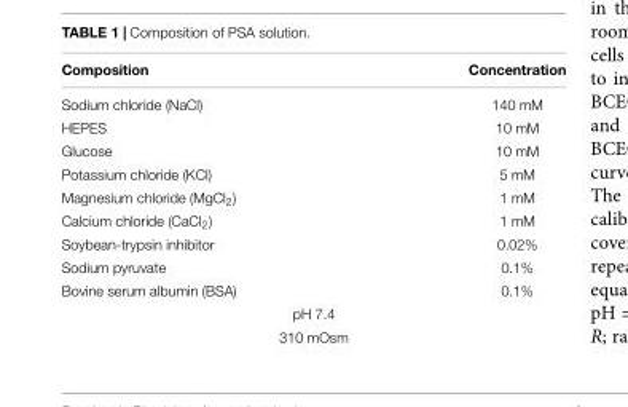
<table><thead><tr><td>Composition</td><td>Concentration</td></tr></thead><tbody><tr><td>Sodium chloride (NaCl)</td><td>140 mM</td></tr><tr><td>HEPES</td><td>10 mM</td></tr><tr><td>Glucose</td><td>10 mM</td></tr><tr><td>Potassium chloride (KCl)</td><td>5 mM</td></tr><tr><td>Magnesium chloride (MgCl<sub>2</sub>)</td><td>1 mM</td></tr><tr><td>Calcium chloride (CaCl<sub>2</sub>)</td><td>1 mM</td></tr><tr><td>Soybean-trypsin inhibitor</td><td>0.02%</td></tr><tr><td>Sodium pyruvate</td><td>0.1%</td></tr><tr><td>Bovine serum albumin (BSA)</td><td>0.1%</td></tr><tr><td colspan="2">pH 7.4</td></tr><tr><td colspan="2">310 mOsm</td></tr></tbody></table>